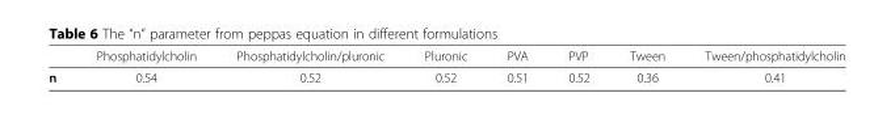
<table><thead><tr><td></td><td>Phosphatidylcholin</td><td>Phosphatidylcholin/pluronic</td><td>Pluronic</td><td>PVA</td><td>PVP</td><td>Tween</td><td>Tween/phosphatidylcholin</td></tr></thead><tbody><tr><td>n</td><td>0.54</td><td>0.52</td><td>0.52</td><td>0.51</td><td>0.52</td><td>0.36</td><td>0.41</td></tr></tbody></table>